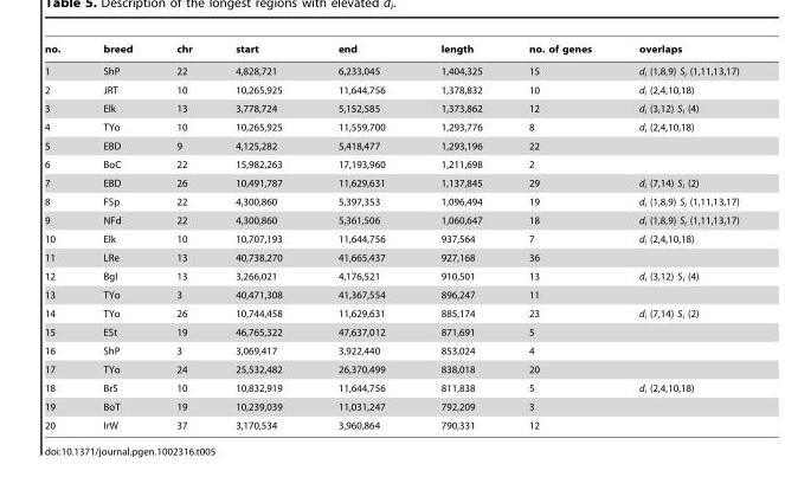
<table><thead><tr><td>no.</td><td>breed</td><td>chr</td><td>start</td><td>end</td><td>length</td><td>no. of genes</td><td>overlaps</td></tr></thead><tbody><tr><td>1</td><td>ShP</td><td>22</td><td>4,828,721</td><td>6,233,045</td><td>1,404,325</td><td>15</td><td>d<sub>i</sub> (1,8,9) S<sub>i</sub> (1,11,13,17)</td></tr><tr><td>2</td><td>JRT</td><td>10</td><td>10,265,925</td><td>11,644,756</td><td>1,378,832</td><td>10</td><td>d<sub>i</sub> (2,4,10,18)</td></tr><tr><td>3</td><td>Elk</td><td>13</td><td>3,778,724</td><td>5,152,585</td><td>1,373,862</td><td>12</td><td>d<sub>i</sub> (3,12) S<sub>i</sub> (4)</td></tr><tr><td>4</td><td>TYo</td><td>10</td><td>10,265,925</td><td>11,559,700</td><td>1,293,776</td><td>8</td><td>d<sub>i</sub> (2,4,10,18)</td></tr><tr><td>5</td><td>EBD</td><td>9</td><td>4,125,282</td><td>5,418,477</td><td>1,293,196</td><td>22</td><td></td></tr><tr><td>6</td><td>BoC</td><td>22</td><td>15,982,263</td><td>17,193,960</td><td>1,211,698</td><td>2</td><td></td></tr><tr><td>7</td><td>EBD</td><td>26</td><td>10,491,787</td><td>11,629,631</td><td>1,137,845</td><td>29</td><td>d<sub>i</sub> (7,14) S<sub>i</sub> (2)</td></tr><tr><td>8</td><td>FSp</td><td>22</td><td>4,300,860</td><td>5,397,353</td><td>1,096,494</td><td>19</td><td>d<sub>i</sub> (1,8,9) S<sub>i</sub> (1,11,13,17)</td></tr><tr><td>9</td><td>NFd</td><td>22</td><td>4,300,860</td><td>5,361,506</td><td>1,060,647</td><td>18</td><td>d<sub>i</sub> (1,8,9) S<sub>i</sub> (1,11,13,17)</td></tr><tr><td>10</td><td>Elk</td><td>10</td><td>10,707,193</td><td>11,644,756</td><td>937,564</td><td>7</td><td>d<sub>i</sub> (2,4,10,18)</td></tr><tr><td>11</td><td>LRe</td><td>13</td><td>40,738,270</td><td>41,665,437</td><td>927,168</td><td>36</td><td></td></tr><tr><td>12</td><td>Bgl</td><td>13</td><td>3,266,021</td><td>4,176,521</td><td>910,501</td><td>13</td><td>d<sub>i</sub> (3,12) S<sub>i</sub> (4)</td></tr><tr><td>13</td><td>TYo</td><td>3</td><td>40,471,308</td><td>41,367,554</td><td>896,247</td><td>11</td><td></td></tr><tr><td>14</td><td>TYo</td><td>26</td><td>10,744,458</td><td>11,629,631</td><td>885,174</td><td>23</td><td>d<sub>i</sub> (7,14) S<sub>i</sub> (2)</td></tr><tr><td>15</td><td>ESt</td><td>19</td><td>46,765,322</td><td>47,637,012</td><td>871,691</td><td>5</td><td></td></tr><tr><td>16</td><td>ShP</td><td>3</td><td>3,069,417</td><td>3,922,440</td><td>853,024</td><td>4</td><td></td></tr><tr><td>17</td><td>TYo</td><td>24</td><td>25,532,482</td><td>26,370,499</td><td>838,018</td><td>20</td><td></td></tr><tr><td>18</td><td>BrS</td><td>10</td><td>10,832,919</td><td>11,644,756</td><td>811,838</td><td>5</td><td>d<sub>i</sub> (2,4,10,18)</td></tr><tr><td>19</td><td>BoT</td><td>19</td><td>10,239,039</td><td>11,031,247</td><td>792,209</td><td>3</td><td></td></tr><tr><td>20</td><td>IrW</td><td>37</td><td>3,170,534</td><td>3,960,864</td><td>790,331</td><td>12</td><td></td></tr></tbody></table>